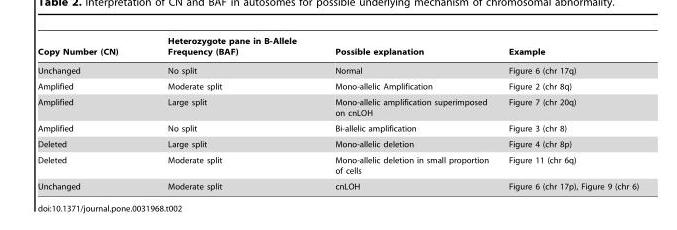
<table><thead><tr><td>Copy Number (CN)</td><td>Heterozygote pane in B-Allele Frequency (BAF)</td><td>Possible explanation</td><td>Example</td></tr></thead><tbody><tr><td>Unchanged</td><td>No split</td><td>Normal</td><td>Figure 6 (chr 17q)</td></tr><tr><td>Amplified</td><td>Moderate split</td><td>Mono-allelic Amplification</td><td>Figure 2 (chr 8q)</td></tr><tr><td>Amplified</td><td>Large split</td><td>Mono-allelic amplification superimposed on cnLOH</td><td>Figure 7 (chr 20q)</td></tr><tr><td>Amplified</td><td>No split</td><td>Bi-allelic amplification</td><td>Figure 3 (chr 8)</td></tr><tr><td>Deleted</td><td>Large split</td><td>Mono-allelic deletion</td><td>Figure 4 (chr 8p)</td></tr><tr><td>Deleted</td><td>Moderate split</td><td>Mono-allelic deletion in small proportion of cells</td><td>Figure 11 (chr 6q)</td></tr><tr><td>Unchanged</td><td>Moderate split</td><td>cnLOH</td><td>Figure 6 (chr 17p), Figure 9 (chr 6)</td></tr></tbody></table>